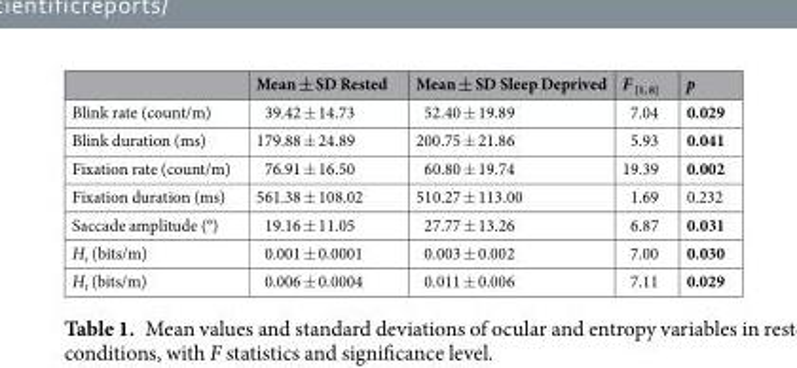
<table><thead><tr><td></td><td>Mean ± SD Rested</td><td>Mean ± SD Sleep Deprived</td><td>F <sub>[1, 8]</sub></td><td>p</td></tr></thead><tbody><tr><td>Blink rate (count/m)</td><td>39.42 ± 14.73</td><td>52.40 ± 19.89</td><td>7.04</td><td>0.029</td></tr><tr><td>Blink duration (ms)</td><td>179.88 ± 24.89</td><td>200.75 ± 21.86</td><td>5.93</td><td>0.041</td></tr><tr><td>Fixation rate (count/m)</td><td>76.91 ± 16.50</td><td>60.80 ± 19.74</td><td>19.39</td><td>0.002</td></tr><tr><td>Fixation duration (ms)</td><td>561.38 ± 108.02</td><td>510.27 ± 113.00</td><td>1.69</td><td>0.232</td></tr><tr><td>Saccade amplitude (°)</td><td>19.16 ± 11.05</td><td>27.77 ± 13.26</td><td>6.87</td><td>0.031</td></tr><tr><td>H<sub>s</sub> (bits/m)</td><td>0.001 ± 0.0001</td><td>0.003 ± 0.002</td><td>7.00</td><td>0.030</td></tr><tr><td>H<sub>t</sub> (bits/m)</td><td>0.006 ± 0.0004</td><td>0.011 ± 0.006</td><td>7.11</td><td>0.029</td></tr></tbody></table>